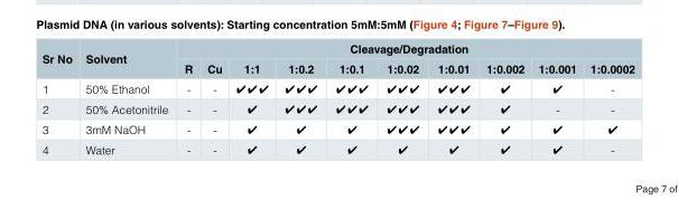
<table><thead><tr><td rowspan="2">Sr No</td><td rowspan="2">Solvent</td><td colspan="10">Cleavage/Degradation</td></tr><tr><td>R</td><td>Cu</td><td>1:1</td><td>1:0.2</td><td>1:0.1</td><td>1:0.02</td><td>1:0.01</td><td>1:0.002</td><td>1:0.001</td><td>1:0.0002</td></tr></thead><tbody><tr><td>1</td><td>50% Ethanol</td><td>-</td><td>-</td><td>✔✔✔</td><td>✔✔✔</td><td>✔✔✔</td><td>✔✔✔</td><td>✔✔✔</td><td>✔</td><td>✔</td><td>-</td></tr><tr><td>2</td><td>50% Acetonitrile</td><td>-</td><td>-</td><td>✔</td><td>✔✔✔</td><td>✔✔✔</td><td>✔✔✔</td><td>✔✔✔</td><td>✔</td><td>-</td><td>-</td></tr><tr><td>3</td><td>3mM NaOH</td><td>-</td><td>-</td><td>✔</td><td>✔</td><td>✔</td><td>✔✔✔</td><td>✔✔✔</td><td>✔</td><td>✔</td><td>✔</td></tr><tr><td>4</td><td>Water</td><td>-</td><td>-</td><td>✔</td><td>✔</td><td>✔</td><td>✔</td><td>✔</td><td>✔</td><td>✔</td><td>-</td></tr></tbody></table>